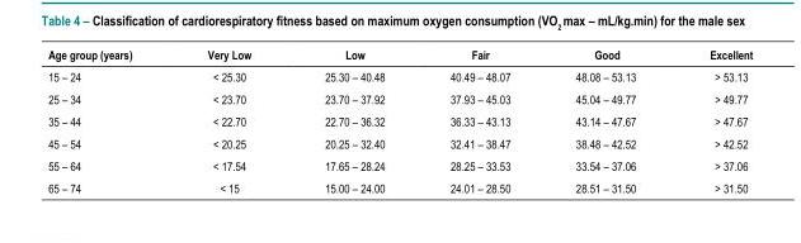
<table><thead><tr><td>Age group (years)</td><td>Very Low</td><td>Low</td><td>Fair</td><td>Good</td><td>Excellent</td></tr></thead><tbody><tr><td>15 – 24</td><td>&lt; 25.30</td><td>25.30 – 40.48</td><td>40.49 – 48.07</td><td>48.08 – 53.13</td><td>&gt; 53.13</td></tr><tr><td>25 – 34</td><td>&lt; 23.70</td><td>23.70 – 37.92</td><td>37.93 – 45.03</td><td>45.04 – 49.77</td><td>&gt; 49.77</td></tr><tr><td>35 – 44</td><td>&lt; 22.70</td><td>22.70 – 36.32</td><td>36.33 – 43.13</td><td>43.14 – 47.67</td><td>&gt; 47.67</td></tr><tr><td>45 – 54</td><td>&lt; 20.25</td><td>20.25 – 32.40</td><td>32.41 – 38.47</td><td>38.48 – 42.52</td><td>&gt; 42.52</td></tr><tr><td>55 – 64</td><td>&lt; 17.54</td><td>17.65 – 28.24</td><td>28.25 – 33.53</td><td>33.54 – 37.06</td><td>&gt; 37.06</td></tr><tr><td>65 – 74</td><td>&lt; 15</td><td>15.00 – 24.00</td><td>24.01 – 28.50</td><td>28.51 – 31.50</td><td>&gt; 31.50</td></tr></tbody></table>